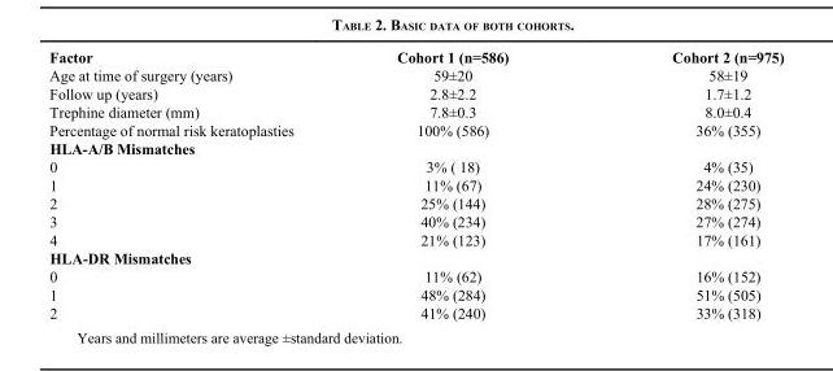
<table><thead><tr><td>Factor</td><td>Cohort 1 (n=586)</td><td>Cohort 2 (n=975)</td></tr></thead><tbody><tr><td>Age at time of surgery (years)</td><td>59±20</td><td>58±19</td></tr><tr><td>Follow up (years)</td><td>2.8±2.2</td><td>1.7±1.2</td></tr><tr><td>Trephine diameter (mm)</td><td>7.8±0.3</td><td>8.0±0.4</td></tr><tr><td>Percentage of normal risk keratoplasties</td><td>100% (586)</td><td>36% (355)</td></tr><tr><td colspan="3">HLA-A/B Mismatches</td></tr><tr><td>0</td><td>3% ( 18)</td><td>4% (35)</td></tr><tr><td>1</td><td>11% (67)</td><td>24% (230)</td></tr><tr><td>2</td><td>25% (144)</td><td>28% (275)</td></tr><tr><td>3</td><td>40% (234)</td><td>27% (274)</td></tr><tr><td>4</td><td>21% (123)</td><td>17% (161)</td></tr><tr><td colspan="3">HLA-DR Mismatches</td></tr><tr><td>0</td><td>11% (62)</td><td>16% (152)</td></tr><tr><td>1</td><td>48% (284)</td><td>51% (505)</td></tr><tr><td>2</td><td>41% (240)</td><td>33% (318)</td></tr></tbody></table>